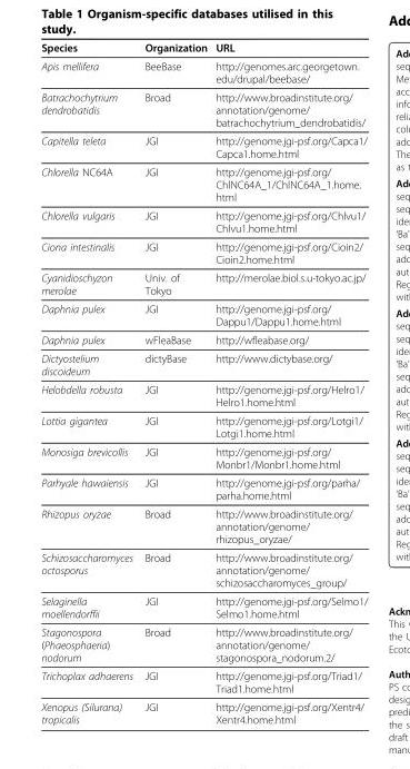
<table><thead><tr><td>Species</td><td>Organization</td><td>URL</td></tr></thead><tbody><tr><td>Apis mellifera</td><td>BeeBase</td><td>http://genomes.arc.georgetown. edu/drupal/beebase/</td></tr><tr><td>Batrachochytrium dendrobatidis</td><td>Broad</td><td>http://www.broadinstitute.org/ annotation/genome/ batrachochytrium_dendrobatidis/</td></tr><tr><td>Capitella teleta</td><td>JGI</td><td>http://genome.jgi-psf.org/Capca1/ Capca1.home.html</td></tr><tr><td>Chlorella NC64A</td><td>JGI</td><td>http://genome.jgi-psf.org/ ChlNC64A_1/ChlNC64A_1.home. html</td></tr><tr><td>Chlorella vulgaris</td><td>JGI</td><td>http://genome.jgi-psf.org/Chlvu1/ Chlvu1.home.html</td></tr><tr><td>Ciona intestinalis</td><td>JGI</td><td>http://genome.jgi-psf.org/Cioin2/ Cioin2.home.html</td></tr><tr><td>Cyanidioschyzon merolae</td><td>Univ. of Tokyo</td><td>http://merolae.biol.s.u-tokyo.ac.jp/</td></tr><tr><td>Daphnia pulex</td><td>JGI</td><td>http://genome.jgi-psf.org/ Dappu1/Dappu1.home.html</td></tr><tr><td>Daphnia pulex</td><td>wFleaBase</td><td>http://wfleabase.org/</td></tr><tr><td>Dictyostelium discoideum</td><td>dictyBase</td><td>http://www.dictybase.org/</td></tr><tr><td>Helobdella robusta</td><td>JGI</td><td>http://genome.jgi-psf.org/Helro1/ Helro1.home.html</td></tr><tr><td>Lottia gigantea</td><td>JGI</td><td>http://genome.jgi-psf.org/Lotgi1/ Lotgi1.home.html</td></tr><tr><td>Monosiga brevicollis</td><td>JGI</td><td>http://genome.jgi-psf.org/ Monbr1/Monbr1.home.html</td></tr><tr><td>Parhyale hawaiensis</td><td>JGI</td><td>http://genome.jgi-psf.org/parha/ parha.home.html</td></tr><tr><td>Rhizopus oryzae</td><td>Broad</td><td>http://www.broadinstitute.org/ annotation/genome/ rhizopus_oryzae/</td></tr><tr><td>Schizosaccharomyces octosporus</td><td>Broad</td><td>http://www.broadinstitute.org/ annotation/genome/ schizosaccharomyces_group/</td></tr><tr><td>Selaginella moellendorffii</td><td>JGI</td><td>http://genome.jgi-psf.org/Selmo1/ Selmo1.home.html</td></tr><tr><td>Stagonospora (Phaeosphaeria) nodorum</td><td>Broad</td><td>http://www.broadinstitute.org/ annotation/genome/ stagonospora_nodorum.2/</td></tr><tr><td>Trichoplax adhaerens</td><td>JGI</td><td>http://genome.jgi-psf.org/Triad1/ Triad1.home.html</td></tr><tr><td>Xenopus (Silurana) tropicalis</td><td>JGI</td><td>http://genome.jgi-psf.org/Xentr4/ Xentr4.home.html</td></tr></tbody></table>